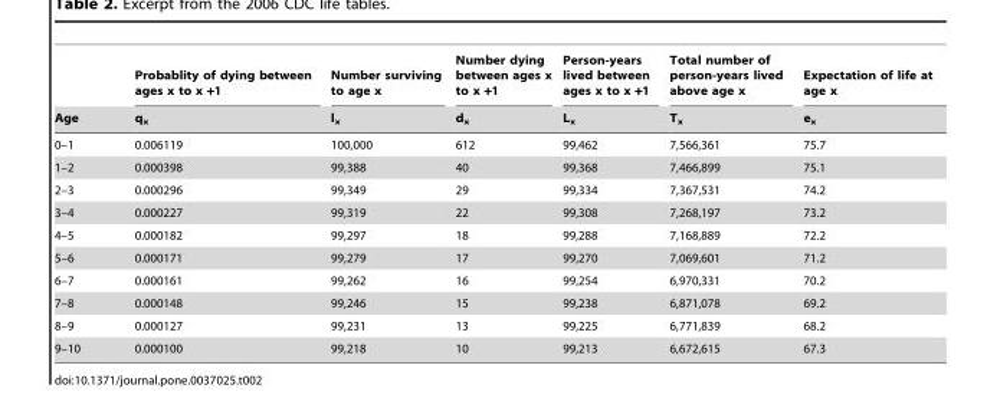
<table><thead><tr><td rowspan="2">Age</td><td rowspan="2">Probablity of dying between ages x to x +1 q<sub>x</sub></td><td rowspan="2">Number surviving to age x lx</td><td rowspan="2">Number dying between ages x to x +1 d<sub>x</sub></td><td rowspan="2">Person-years lived between ages x to x +1 Lx</td><td rowspan="2">Total number of person-years lived above age x T<sub>x</sub></td><td rowspan="2">Expectation of life at age x e<sub>x</sub></td></tr><tr></tr></thead><tbody><tr><td>0–1</td><td>0.006119</td><td>100,000</td><td>612</td><td>99,462</td><td>7,566,361</td><td>75.7</td></tr><tr><td>1–2</td><td>0.000398</td><td>99,388</td><td>40</td><td>99,368</td><td>7,466,899</td><td>75.1</td></tr><tr><td>2–3</td><td>0.000296</td><td>99,349</td><td>29</td><td>99,334</td><td>7,367,531</td><td>74.2</td></tr><tr><td>3–4</td><td>0.000227</td><td>99,319</td><td>22</td><td>99,308</td><td>7,268,197</td><td>73.2</td></tr><tr><td>4–5</td><td>0.000182</td><td>99,297</td><td>18</td><td>99,288</td><td>7,168,889</td><td>72.2</td></tr><tr><td>5–6</td><td>0.000171</td><td>99,279</td><td>17</td><td>99,270</td><td>7,069,601</td><td>71.2</td></tr><tr><td>6–7</td><td>0.000161</td><td>99,262</td><td>16</td><td>99,254</td><td>6,970,331</td><td>70.2</td></tr><tr><td>7–8</td><td>0.000148</td><td>99,246</td><td>15</td><td>99,238</td><td>6,871,078</td><td>69.2</td></tr><tr><td>8–9</td><td>0.000127</td><td>99,231</td><td>13</td><td>99,225</td><td>6,771,839</td><td>68.2</td></tr><tr><td>9–10</td><td>0.000100</td><td>99,218</td><td>10</td><td>99,213</td><td>6,672,615</td><td>67.3</td></tr></tbody></table>